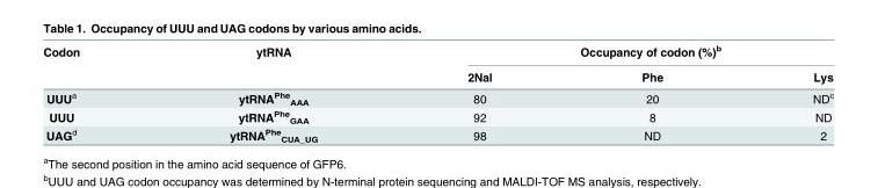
<table><thead><tr><td rowspan="2">Codon</td><td rowspan="2">ytRNA</td><td colspan="3">Occupancy of codon (%)<sup>b</sup></td></tr><tr><td>2Nal</td><td>Phe</td><td>Lys</td></tr></thead><tbody><tr><td>UUU<sup>a</sup></td><td>ytRNA<sup>Phe</sup> <sub>AAA</sub></td><td>80</td><td>20</td><td>ND<sup>c</sup></td></tr><tr><td>UUU</td><td>ytRNA<sup>Phe</sup> <sub>GAA</sub></td><td>92</td><td>8</td><td>ND</td></tr><tr><td>UAG<sup>d</sup></td><td>ytRNA<sup>Phe</sup> <sub>CUA_UG</sub></td><td>98</td><td>ND</td><td>2</td></tr></tbody></table>